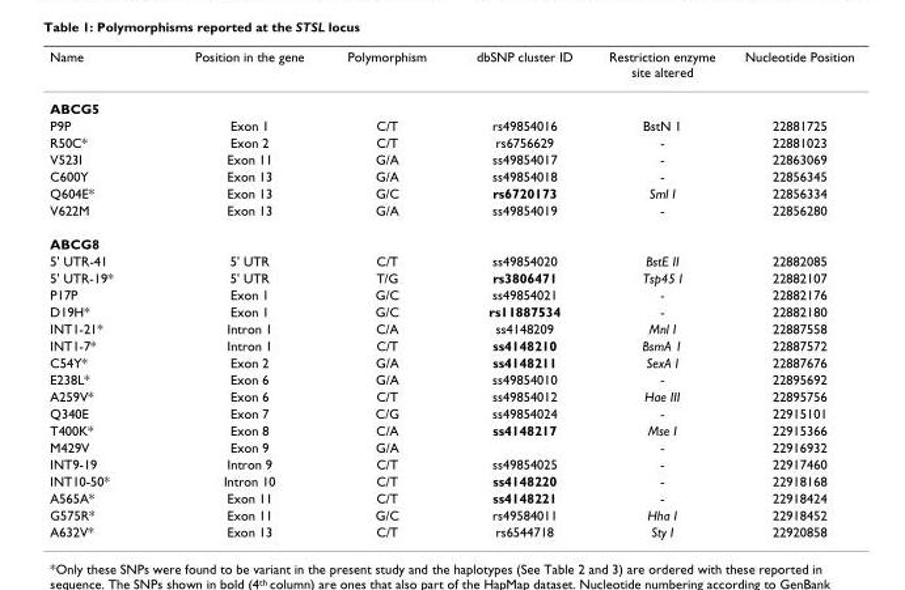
<table><thead><tr><td>Name</td><td>Position in the gene</td><td>Polymorphism</td><td>dbSNP cluster ID</td><td>Restriction enzyme site altered</td><td>Nucleotide Position</td></tr></thead><tbody><tr><td colspan="6">ABCG5</td></tr><tr><td>P9P</td><td>Exon 1</td><td>C/T</td><td>rs49854016</td><td>BstN 1</td><td>22881725</td></tr><tr><td>R50C*</td><td>Exon 2</td><td>C/T</td><td>rs6756629</td><td>-</td><td>22881023</td></tr><tr><td>V523I</td><td>Exon 11</td><td>G/A</td><td>ss49854017</td><td>-</td><td>22863069</td></tr><tr><td>C600Y</td><td>Exon 13</td><td>G/A</td><td>ss49854018</td><td>-</td><td>22856345</td></tr><tr><td>Q604E*</td><td>Exon 13</td><td>G/C</td><td>rs6720173</td><td>Sml I</td><td>22856334</td></tr><tr><td>V622M</td><td>Exon 13</td><td>G/A</td><td>ss49854019</td><td>-</td><td>22856280</td></tr><tr><td colspan="6">ABCG8</td></tr><tr><td>5&#x27; UTR-41</td><td>5&#x27; UTR</td><td>C/T</td><td>ss49854020</td><td>BstE II</td><td>22882085</td></tr><tr><td>5&#x27; UTR-19*</td><td>5&#x27; UTR</td><td>T/G</td><td>rs3806471</td><td>Tsp45 I</td><td>22882107</td></tr><tr><td>P17P</td><td>Exon 1</td><td>G/C</td><td>ss49854021</td><td>-</td><td>22882176</td></tr><tr><td>D19H*</td><td>Exon 1</td><td>G/C</td><td>rs11887534</td><td>-</td><td>22882180</td></tr><tr><td>INT1-21*</td><td>Intron 1</td><td>C/A</td><td>ss4148209</td><td>Mnl I</td><td>22887558</td></tr><tr><td>INT1-7*</td><td>Intron 1</td><td>C/T</td><td>ss4148210</td><td>BsmA 1</td><td>22887572</td></tr><tr><td>C54Y*</td><td>Exon 2</td><td>G/A</td><td>ss4148211</td><td>SexA I</td><td>22887676</td></tr><tr><td>E238L*</td><td>Exon 6</td><td>G/A</td><td>ss49854010</td><td>-</td><td>22895692</td></tr><tr><td>A259V*</td><td>Exon 6</td><td>C/T</td><td>ss49854012</td><td>Hae III</td><td>22895756</td></tr><tr><td>Q340E</td><td>Exon 7</td><td>C/G</td><td>ss49854024</td><td>-</td><td>22915101</td></tr><tr><td>T400K*</td><td>Exon 8</td><td>C/A</td><td>ss4148217</td><td>Mse I</td><td>22915366</td></tr><tr><td>M429V</td><td>Exon 9</td><td>G/A</td><td></td><td>-</td><td>22916932</td></tr><tr><td>INT9-19</td><td>Intron 9</td><td>C/T</td><td>ss49854025</td><td>-</td><td>22917460</td></tr><tr><td>INT10-50*</td><td>Intron 10</td><td>C/T</td><td>ss4148220</td><td>-</td><td>22918168</td></tr><tr><td>A565A*</td><td>Exon 11</td><td>C/T</td><td>ss4148221</td><td>-</td><td>22918424</td></tr><tr><td>G575R*</td><td>Exon 11</td><td>G/C</td><td>rs49584011</td><td>Hha I</td><td>22918452</td></tr><tr><td>A632V*</td><td>Exon 13</td><td>C/T</td><td>rs6544718</td><td>Sty I</td><td>22920858</td></tr></tbody></table>